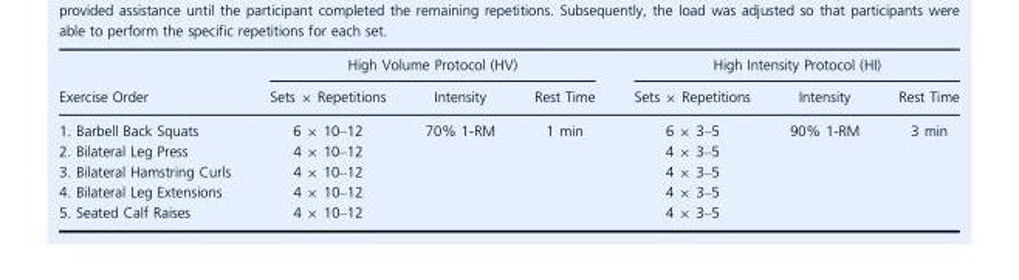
<table><thead><tr><td rowspan="2">Exercise Order</td><td colspan="3">High Volume Protocol (HV)</td><td colspan="3">High Intensity Protocol (HI)</td></tr><tr><td>Sets × Repetitions</td><td>Intensity</td><td>Rest Time</td><td>Sets × Repetitions</td><td>Intensity</td><td>Rest Time</td></tr></thead><tbody><tr><td>1. Barbell Back Squats</td><td>6 × 10–12</td><td rowspan="5">70% 1-RM</td><td rowspan="5">1 min</td><td>6 × 3–5</td><td rowspan="5">90% 1-RM</td><td rowspan="5">3 min</td></tr><tr><td>2. Bilateral Leg Press</td><td>4 × 10–12</td><td>4 × 3–5</td></tr><tr><td>3. Bilateral Hamstring Curls</td><td>4 × 10–12</td><td>4 × 3–5</td></tr><tr><td>4. Bilateral Leg Extensions</td><td>4 × 10–12</td><td>4 × 3–5</td></tr><tr><td>5. Seated Calf Raises</td><td>4 × 10–12</td><td>4 × 3–5</td></tr></tbody></table>